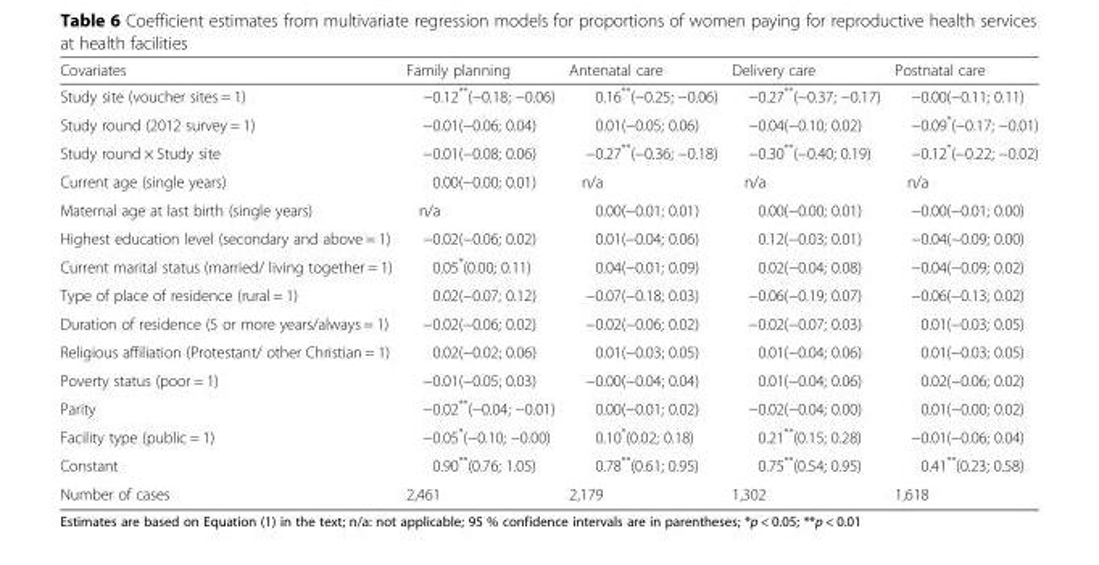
<table><thead><tr><td>Covariates</td><td>Family planning</td><td>Antenatal care</td><td>Delivery care</td><td>Postnatal care</td></tr></thead><tbody><tr><td>Study site (voucher sites = 1)</td><td>−0.12**(−0.18; −0.06)</td><td>0.16**(−0.25; −0.06)</td><td>−0.27**(−0.37; −0.17)</td><td>−0.00(−0.11; 0.11)</td></tr><tr><td>Study round (2012 survey = 1)</td><td>−0.01(−0.06; 0.04)</td><td>0.01(−0.05; 0.06)</td><td>−0.04(−0.10; 0.02)</td><td>−0.09*(−0.17; −0.01)</td></tr><tr><td>Study round × Study site</td><td>−0.01(−0.08; 0.06)</td><td>−0.27**(−0.36; −0.18)</td><td>−0.30**(−0.40; 0.19)</td><td>−0.12*(−0.22; −0.02)</td></tr><tr><td>Current age (single years)</td><td>0.00(−0.00; 0.01)</td><td>n/a</td><td>n/a</td><td>n/a</td></tr><tr><td>Maternal age at last birth (single years)</td><td>n/a</td><td>0.00(−0.01; 0.01)</td><td>0.00(−0.00; 0.01)</td><td>−0.00(−0.01; 0.00)</td></tr><tr><td>Highest education level (secondary and above = 1)</td><td>−0.02(−0.06; 0.02)</td><td>0.01(−0.04; 0.06)</td><td>0.12(−0.03; 0.01)</td><td>−0.04(−0.09; 0.00)</td></tr><tr><td>Current marital status (married/ living together = 1)</td><td>0.05*(0.00; 0.11)</td><td>0.04(−0.01; 0.09)</td><td>0.02(−0.04; 0.08)</td><td>−0.04(−0.09; 0.02)</td></tr><tr><td>Type of place of residence (rural = 1)</td><td>0.02(−0.07; 0.12)</td><td>−0.07(−0.18; 0.03)</td><td>−0.06(−0.19; 0.07)</td><td>−0.06(−0.13; 0.02)</td></tr><tr><td>Duration of residence (5 or more years/always = 1)</td><td>−0.02(−0.06; 0.02)</td><td>−0.02(−0.06; 0.02)</td><td>−0.02(−0.07; 0.03)</td><td>0.01(−0.03; 0.05)</td></tr><tr><td>Religious affiliation (Protestant/ other Christian = 1)</td><td>0.02(−0.02; 0.06)</td><td>0.01(−0.03; 0.05)</td><td>0.01(−0.04; 0.06)</td><td>0.01(−0.03; 0.05)</td></tr><tr><td>Poverty status (poor = 1)</td><td>−0.01(−0.05; 0.03)</td><td>−0.00(−0.04; 0.04)</td><td>0.01(−0.04; 0.06)</td><td>0.02(−0.06; 0.02)</td></tr><tr><td>Parity</td><td>−0.02**(−0.04; −0.01)</td><td>0.00(−0.01; 0.02)</td><td>−0.02(−0.04; 0.00)</td><td>0.01(−0.00; 0.02)</td></tr><tr><td>Facility type (public = 1)</td><td>−0.05*(−0.10; −0.00)</td><td>0.10*(0.02; 0.18)</td><td>0.21**(0.15; 0.28)</td><td>−0.01(−0.06; 0.04)</td></tr><tr><td>Constant</td><td>0.90**(0.76; 1.05)</td><td>0.78**(0.61; 0.95)</td><td>0.75**(0.54; 0.95)</td><td>0.41**(0.23; 0.58)</td></tr><tr><td>Number of cases</td><td>2,461</td><td>2,179</td><td>1,302</td><td>1,618</td></tr></tbody></table>